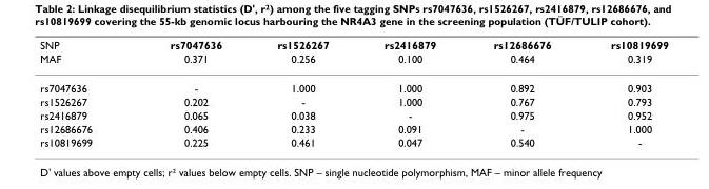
<table><thead><tr><td rowspan="2">SNP MAF</td><td rowspan="2">rs7047636 0.371</td><td rowspan="2">rs1526267 0.256</td><td rowspan="2">rs2416879 0.100</td><td rowspan="2">rs12686676 0.464</td><td rowspan="2">rs10819699 0.319</td></tr><tr></tr></thead><tbody><tr><td>rs7047636</td><td>-</td><td>1.000</td><td>1.000</td><td>0.892</td><td>0.903</td></tr><tr><td>rs1526267</td><td>0.202</td><td>-</td><td>1.000</td><td>0.767</td><td>0.793</td></tr><tr><td>rs2416879</td><td>0.065</td><td>0.038</td><td>-</td><td>0.975</td><td>0.952</td></tr><tr><td>rs12686676</td><td>0.406</td><td>0.233</td><td>0.091</td><td>-</td><td>1.000</td></tr><tr><td>rs10819699</td><td>0.225</td><td>0.461</td><td>0.047</td><td>0.540</td><td>-</td></tr></tbody></table>